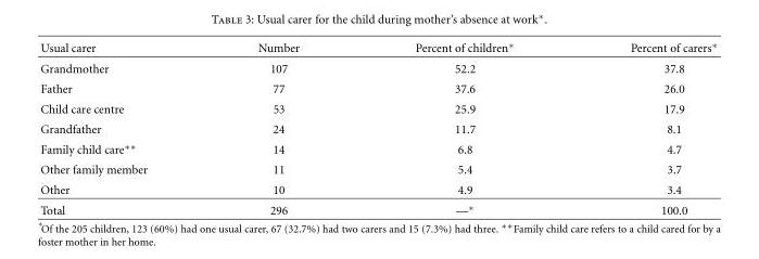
<table><thead><tr><td>Usual carer</td><td>Number</td><td>Percent of children∗</td><td>Percent of carers∗</td></tr></thead><tbody><tr><td>Grandmother</td><td>107</td><td>52.2</td><td>37.8</td></tr><tr><td>Father</td><td>77</td><td>37.6</td><td>26.0</td></tr><tr><td>Child care centre</td><td>53</td><td>25.9</td><td>17.9</td></tr><tr><td>Grandfather</td><td>24</td><td>11.7</td><td>8.1</td></tr><tr><td>Family child care∗∗</td><td>14</td><td>6.8</td><td>4.7</td></tr><tr><td>Other family member</td><td>11</td><td>5.4</td><td>3.7</td></tr><tr><td>Other</td><td>10</td><td>4.9</td><td>3.4</td></tr><tr><td>Total</td><td>296</td><td>—∗</td><td>100.0</td></tr></tbody></table>